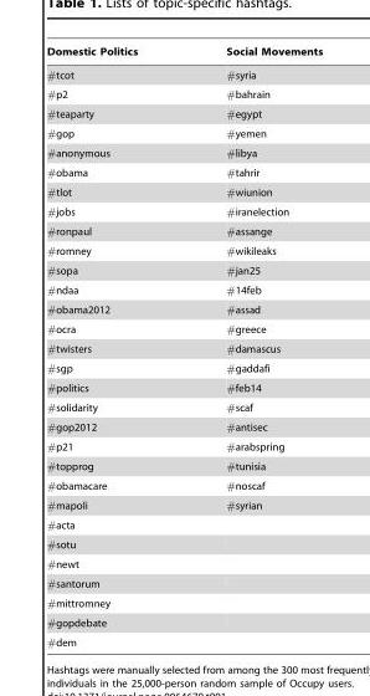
<table><thead><tr><td>Domestic Politics</td><td>Social Movements</td></tr></thead><tbody><tr><td>#tcot</td><td>#syria</td></tr><tr><td>#p2</td><td>#bahrain</td></tr><tr><td>#teaparty</td><td>#egypt</td></tr><tr><td>#gop</td><td>#yemen</td></tr><tr><td>#anonymous</td><td>#libya</td></tr><tr><td>#obama</td><td>#tahrir</td></tr><tr><td>#tlot</td><td>#wiunion</td></tr><tr><td>#jobs</td><td>#iranelection</td></tr><tr><td>#ronpaul</td><td>#assange</td></tr><tr><td>#romney</td><td>#wikileaks</td></tr><tr><td>#sopa</td><td>#jan25</td></tr><tr><td>#ndaa</td><td>#14feb</td></tr><tr><td>#obama2012</td><td>#assad</td></tr><tr><td>#ocra</td><td>#greece</td></tr><tr><td>#twisters</td><td>#damascus</td></tr><tr><td>#sgp</td><td>#gaddafi</td></tr><tr><td>#politics</td><td>#feb14</td></tr><tr><td>#solidarity</td><td>#scaf</td></tr><tr><td>#gop2012</td><td>#antisec</td></tr><tr><td>#p21</td><td>#arabspring</td></tr><tr><td>#topprog</td><td>#tunisia</td></tr><tr><td>#obamacare</td><td>#noscaf</td></tr><tr><td>#mapoli</td><td>#syrian</td></tr><tr><td colspan="2">#acta</td></tr><tr><td colspan="2">#sotu</td></tr><tr><td colspan="2">#newt</td></tr><tr><td colspan="2">#santorum</td></tr><tr><td colspan="2">#mittromney</td></tr><tr><td colspan="2">#gopdebate</td></tr><tr><td>#dem</td><td></td></tr></tbody></table>